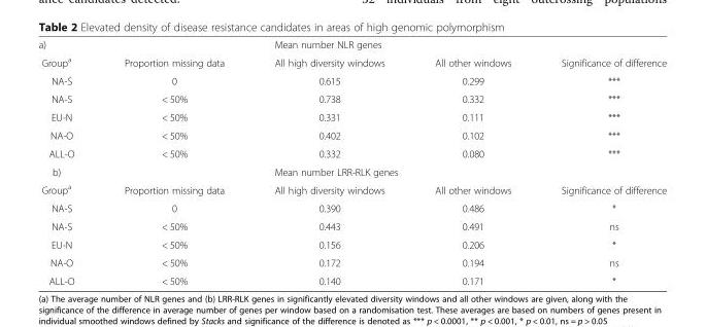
<table><tbody><tr><td>a)</td><td></td><td colspan="2">Mean number NLR genes</td><td></td></tr><tr><td>Group<sup>a</sup></td><td>Proportion missing data</td><td>All high diversity windows</td><td>All other windows</td><td>Significance of difference</td></tr><tr><td>NA-S</td><td>0</td><td>0.615</td><td>0.299</td><td>***</td></tr><tr><td>NA-S</td><td>&lt; 50%</td><td>0.738</td><td>0.332</td><td>***</td></tr><tr><td>EU-N</td><td>&lt; 50%</td><td>0.331</td><td>0.111</td><td>***</td></tr><tr><td>NA-O</td><td>&lt; 50%</td><td>0.402</td><td>0.102</td><td>***</td></tr><tr><td>ALL-O</td><td>&lt; 50%</td><td>0.332</td><td>0.080</td><td>***</td></tr><tr><td>b)</td><td></td><td colspan="2">Mean number LRR-RLK genes</td><td></td></tr><tr><td>Group<sup>a</sup></td><td>Proportion missing data</td><td>All high diversity windows</td><td>All other windows</td><td>Significance of difference</td></tr><tr><td>NA-S</td><td>0</td><td>0.390</td><td>0.486</td><td>*</td></tr><tr><td>NA-S</td><td>&lt; 50%</td><td>0.443</td><td>0.491</td><td>ns</td></tr><tr><td>EU-N</td><td>&lt; 50%</td><td>0.156</td><td>0.206</td><td>*</td></tr><tr><td>NA-O</td><td>&lt; 50%</td><td>0.172</td><td>0.194</td><td>ns</td></tr><tr><td>ALL-O</td><td>&lt; 50%</td><td>0.140</td><td>0.171</td><td>*</td></tr></tbody></table>